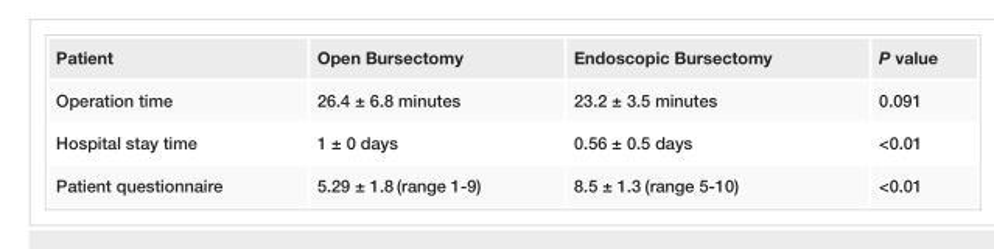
<table><tbody><tr><td>Patient</td><td>Open Bursectomy</td><td>Endoscopic Bursectomy</td><td>P value</td></tr><tr><td>Operation time</td><td>26.4 ± 6.8 minutes</td><td>23.2 ± 3.5 minutes</td><td>0.091</td></tr><tr><td>Hospital stay time</td><td>1 ± 0 days</td><td>0.56 ± 0.5 days</td><td>&lt;0.01</td></tr><tr><td>Patient questionnaire</td><td>5.29 ± 1.8 (range 1-9)</td><td>8.5 ± 1.3 (range 5-10)</td><td>&lt;0.01</td></tr></tbody></table>